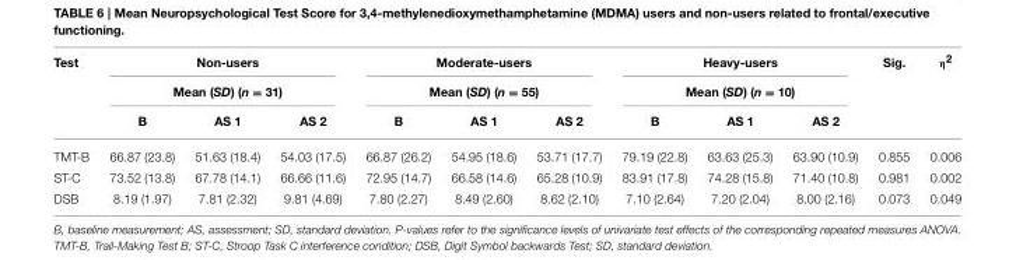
<table><thead><tr><td rowspan="3">Test</td><td rowspan="2" colspan="3">Non-users Mean (SD) (n = 31)</td><td rowspan="2" colspan="3">Moderate-users Mean (SD) (n = 55)</td><td rowspan="2" colspan="3">Heavy-users Mean (SD) (n = 10)</td><td rowspan="3">Sig.</td><td rowspan="3">η<sup>2</sup></td></tr><tr></tr><tr><td>B</td><td>AS 1</td><td>AS 2</td><td>B</td><td>AS 1</td><td>AS 2</td><td>B</td><td>AS 1</td><td>AS 2</td></tr></thead><tbody><tr><td>TMT-B</td><td>66.87 (23.8)</td><td>51.63 (18.4)</td><td>54.03 (17.5)</td><td>66.87 (26.2)</td><td>54.95 (18.6)</td><td>53.71 (17.7)</td><td>79.19 (22.8)</td><td>63.63 (25.3)</td><td>63.90 (10.9)</td><td>0.855</td><td>0.006</td></tr><tr><td>ST-C</td><td>73.52 (13.8)</td><td>67.78 (14.1)</td><td>66.66 (11.6)</td><td>72.95 (14.7)</td><td>66.58 (14.6)</td><td>65.28 (10.9)</td><td>83.91 (17.8)</td><td>74.28 (15.8)</td><td>71.40 (10.8)</td><td>0.981</td><td>0.002</td></tr><tr><td>DSB</td><td>8.19 (1.97)</td><td>7.81 (2.32)</td><td>9.81 (4.69)</td><td>7.80 (2.27)</td><td>8.49 (2.60)</td><td>8.62 (2.10)</td><td>7.10 (2.64)</td><td>7.20 (2.04)</td><td>8.00 (2.16)</td><td>0.073</td><td>0.049</td></tr></tbody></table>